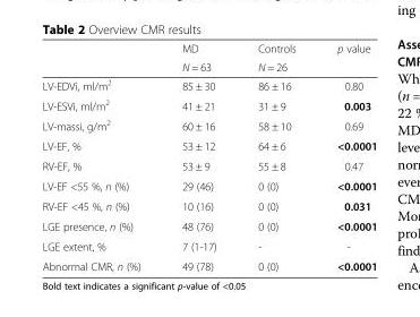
<table><thead><tr><td rowspan="2"></td><td rowspan="2">MD N = 63</td><td rowspan="2">Controls N = 26</td><td rowspan="2">p value</td></tr><tr></tr></thead><tbody><tr><td>LV-EDVi, ml/m<sup>2</sup></td><td>85 ± 30</td><td>86 ± 16</td><td>0.80</td></tr><tr><td>LV-ESVi, ml/m<sup>2</sup></td><td>41 ± 21</td><td>31 ± 9</td><td>0.003</td></tr><tr><td>LV-massi, g/m<sup>2</sup></td><td>60 ± 16</td><td>58 ± 10</td><td>0.69</td></tr><tr><td>LV-EF, %</td><td>53 ± 12</td><td>64 ± 6</td><td>&lt;0.0001</td></tr><tr><td>RV-EF, %</td><td>53 ± 9</td><td>55 ± 8</td><td>0.47</td></tr><tr><td>LV-EF &lt;55 %, n (%)</td><td>29 (46)</td><td>0 (0)</td><td>&lt;0.0001</td></tr><tr><td>RV-EF &lt;45 %, n (%)</td><td>10 (16)</td><td>0 (0)</td><td>0.031</td></tr><tr><td>LGE presence, n (%)</td><td>48 (76)</td><td>0 (0)</td><td>&lt;0.0001</td></tr><tr><td>LGE extent, %</td><td>7 (1-17)</td><td>-</td><td>-</td></tr><tr><td>Abnormal CMR, n (%)</td><td>49 (78)</td><td>0 (0)</td><td>&lt;0.0001</td></tr></tbody></table>